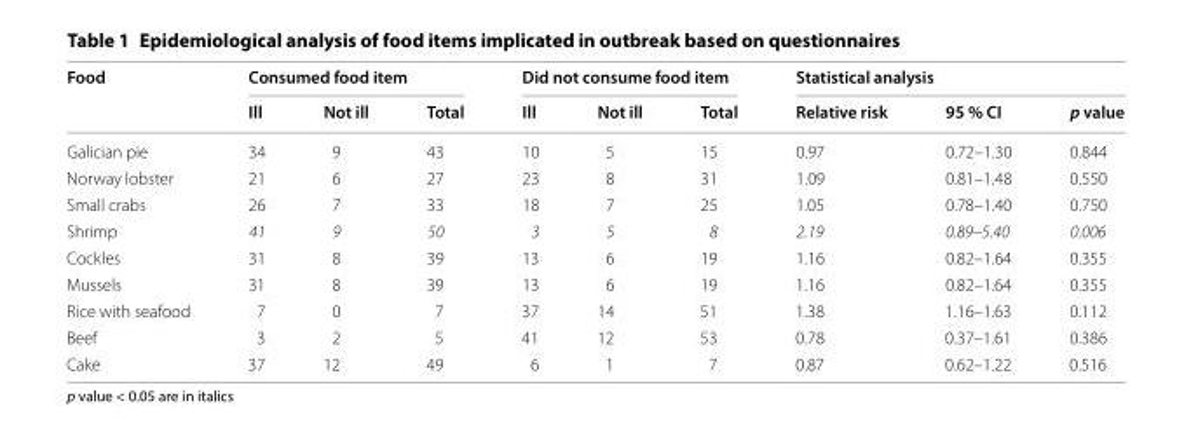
<table><thead><tr><td rowspan="2">Food</td><td colspan="3">Consumed food item</td><td colspan="3">Did not consume food item</td><td colspan="3">Statistical analysis</td></tr><tr><td>Ill</td><td>Not ill</td><td>Total</td><td>Ill</td><td>Not ill</td><td>Total</td><td>Relative risk</td><td>95 % CI</td><td>p value</td></tr></thead><tbody><tr><td>Galician pie</td><td>34</td><td>9</td><td>43</td><td>10</td><td>5</td><td>15</td><td>0.97</td><td>0.72–1.30</td><td>0.844</td></tr><tr><td>Norway lobster</td><td>21</td><td>6</td><td>27</td><td>23</td><td>8</td><td>31</td><td>1.09</td><td>0.81–1.48</td><td>0.550</td></tr><tr><td>Small crabs</td><td>26</td><td>7</td><td>33</td><td>18</td><td>7</td><td>25</td><td>1.05</td><td>0.78–1.40</td><td>0.750</td></tr><tr><td>Shrimp</td><td>41</td><td>9</td><td>50</td><td>3</td><td>5</td><td>8</td><td>2.19</td><td>0.89–5.40</td><td>0.006</td></tr><tr><td>Cockles</td><td>31</td><td>8</td><td>39</td><td>13</td><td>6</td><td>19</td><td>1.16</td><td>0.82–1.64</td><td>0.355</td></tr><tr><td>Mussels</td><td>31</td><td>8</td><td>39</td><td>13</td><td>6</td><td>19</td><td>1.16</td><td>0.82–1.64</td><td>0.355</td></tr><tr><td>Rice with seafood</td><td>7</td><td>0</td><td>7</td><td>37</td><td>14</td><td>51</td><td>1.38</td><td>1.16–1.63</td><td>0.112</td></tr><tr><td>Beef</td><td>3</td><td>2</td><td>5</td><td>41</td><td>12</td><td>53</td><td>0.78</td><td>0.37–1.61</td><td>0.386</td></tr><tr><td>Cake</td><td>37</td><td>12</td><td>49</td><td>6</td><td>1</td><td>7</td><td>0.87</td><td>0.62–1.22</td><td>0.516</td></tr></tbody></table>